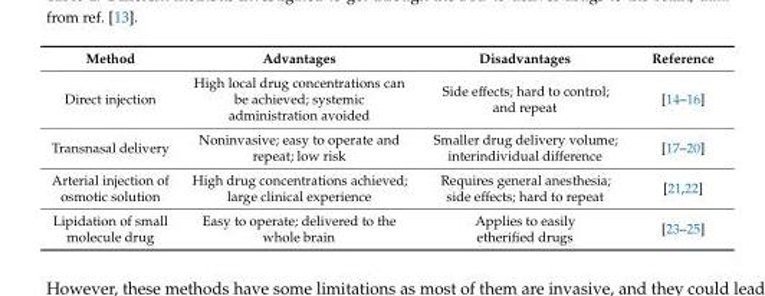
<table><thead><tr><td>Method</td><td>Advantages</td><td>Disadvantages</td><td>Reference</td></tr></thead><tbody><tr><td>Direct injection</td><td>High local drug concentrations can be achieved; systemic administration avoided</td><td>Side effects; hard to control; and repeat</td><td>[14–16]</td></tr><tr><td>Transnasal delivery</td><td>Noninvasive; easy to operate and repeat; low risk</td><td>Smaller drug delivery volume; interindividual difference</td><td>[17–20]</td></tr><tr><td>Arterial injection of osmotic solution</td><td>High drug concentrations achieved; large clinical experience</td><td>Requires general anesthesia; side effects; hard to repeat</td><td>[21,22]</td></tr><tr><td>Lipidation of small molecule drug</td><td>Easy to operate; delivered to the whole brain</td><td>Applies to easily etherified drugs</td><td>[23–25]</td></tr></tbody></table>